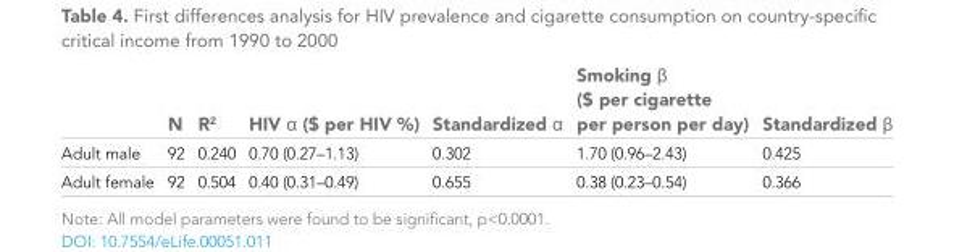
<table><thead><tr><td></td><td>N</td><td>R<sup>2</sup></td><td>HIV α ($ per HIV %)</td><td>Standardized α</td><td>Smoking β ($ per cigarette per person per day)</td><td>Standardized β</td></tr></thead><tbody><tr><td>Adult male</td><td>92</td><td>0.240</td><td>0.70 (0.27–1.13)</td><td>0.302</td><td>1.70 (0.96–2.43)</td><td>0.425</td></tr><tr><td>Adult female</td><td>92</td><td>0.504</td><td>0.40 (0.31–0.49)</td><td>0.655</td><td>0.38 (0.23–0.54)</td><td>0.366</td></tr></tbody></table>